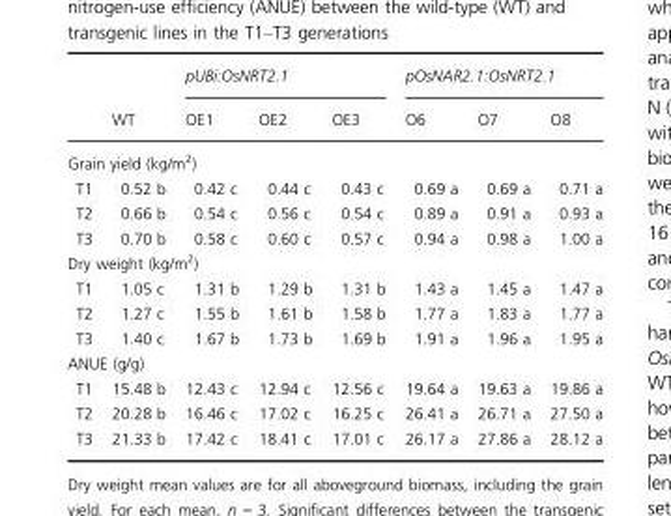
<table><thead><tr><td rowspan="2"></td><td rowspan="2">WT</td><td colspan="3">pUBi:OsNRT2.1</td><td colspan="3">pOsNAR2.1:OsNRT2.1</td></tr><tr><td>OE1</td><td>OE2</td><td>OE3</td><td>O6</td><td>O7</td><td>O8</td></tr></thead><tbody><tr><td colspan="8">Grain yield (kg/m<sup>2</sup>)</td></tr><tr><td>T1</td><td>0.52 b</td><td>0.42 c</td><td>0.44 c</td><td>0.43 c</td><td>0.69 a</td><td>0.69 a</td><td>0.71 a</td></tr><tr><td>T2</td><td>0.66 b</td><td>0.54 c</td><td>0.56 c</td><td>0.54 c</td><td>0.89 a</td><td>0.91 a</td><td>0.93 a</td></tr><tr><td>T3</td><td>0.70 b</td><td>0.58 c</td><td>0.60 c</td><td>0.57 c</td><td>0.94 a</td><td>0.98 a</td><td>1.00 a</td></tr><tr><td colspan="8">Dry weight (kg/m<sup>2</sup>)</td></tr><tr><td>T1</td><td>1.05 c</td><td>1.31 b</td><td>1.29 b</td><td>1.31 b</td><td>1.43 a</td><td>1.45 a</td><td>1.47 a</td></tr><tr><td>T2</td><td>1.27 c</td><td>1.55 b</td><td>1.61 b</td><td>1.58 b</td><td>1.77 a</td><td>1.83 a</td><td>1.77 a</td></tr><tr><td>T3</td><td>1.40 c</td><td>1.67 b</td><td>1.73 b</td><td>1.69 b</td><td>1.91 a</td><td>1.96 a</td><td>1.95 a</td></tr><tr><td colspan="8">ANUE (g/g)</td></tr><tr><td>T1</td><td>15.48 b</td><td>12.43 c</td><td>12.94 c</td><td>12.56 c</td><td>19.64 a</td><td>19.63 a</td><td>19.86 a</td></tr><tr><td>T2</td><td>20.28 b</td><td>16.46 c</td><td>17.02 c</td><td>16.25 c</td><td>26.41 a</td><td>26.71 a</td><td>27.50 a</td></tr><tr><td>T3</td><td>21.33 b</td><td>17.42 c</td><td>18.41 c</td><td>17.01 c</td><td>26.17 a</td><td>27.86 a</td><td>28.12 a</td></tr></tbody></table>